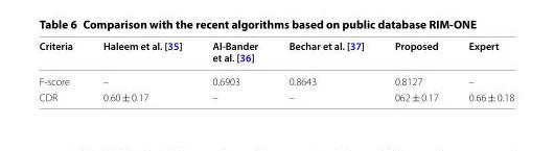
<table><thead><tr><td>Criteria</td><td>Haleem et al. [35]</td><td>Al-Bander et al. [36]</td><td>Bechar et al. [37]</td><td>Proposed</td><td>Expert</td></tr></thead><tbody><tr><td>F-score</td><td>–</td><td>0.6903</td><td>0.8643</td><td>0.8127</td><td>–</td></tr><tr><td>CDR</td><td>0.60 ± 0.17</td><td>–</td><td>–</td><td>062 ± 0.17</td><td>0.66 ± 0.18</td></tr></tbody></table>